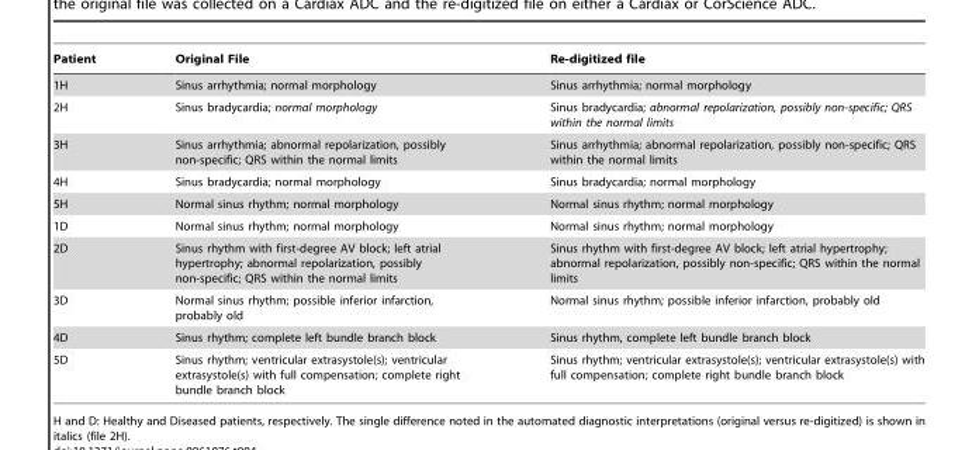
<table><thead><tr><td>Patient</td><td>Original File</td><td>Re-digitized file</td></tr></thead><tbody><tr><td>1H</td><td>Sinus arrhythmia; normal morphology</td><td>Sinus arrhythmia; normal morphology</td></tr><tr><td>2H</td><td>Sinus bradycardia; normal morphology</td><td>Sinus bradycardia; abnormal repolarization, possibly non-specific; QRS within the normal limits</td></tr><tr><td>3H</td><td>Sinus arrhythmia; abnormal repolarization, possibly non-specific; QRS within the normal limits</td><td>Sinus arrhythmia; abnormal repolarization, possibly non-specific; QRS within the normal limits</td></tr><tr><td>4H</td><td>Sinus bradycardia; normal morphology</td><td>Sinus bradycardia; normal morphology</td></tr><tr><td>5H</td><td>Normal sinus rhythm; normal morphology</td><td>Normal sinus rhythm; normal morphology</td></tr><tr><td>1D</td><td>Normal sinus rhythm; normal morphology</td><td>Normal sinus rhythm; normal morphology</td></tr><tr><td>2D</td><td>Sinus rhythm with first-degree AV block; left atrial hypertrophy; abnormal repolarization, possibly non-specific; QRS within the normal limits</td><td>Sinus rhythm with first-degree AV block; left atrial hypertrophy; abnormal repolarization, possibly non-specific; QRS within the normal limits</td></tr><tr><td>3D</td><td>Normal sinus rhythm; possible inferior infarction, probably old</td><td>Normal sinus rhythm; possible inferior infarction, probably old</td></tr><tr><td>4D</td><td>Sinus rhythm; complete left bundle branch block</td><td>Sinus rhythm, complete left bundle branch block</td></tr><tr><td>5D</td><td>Sinus rhythm; ventricular extrasystole(s); ventricular extrasystole(s) with full compensation; complete right bundle branch block</td><td>Sinus rhythm; ventricular extrasystole(s); ventricular extrasystole(s) with full compensation; complete right bundle branch block</td></tr></tbody></table>